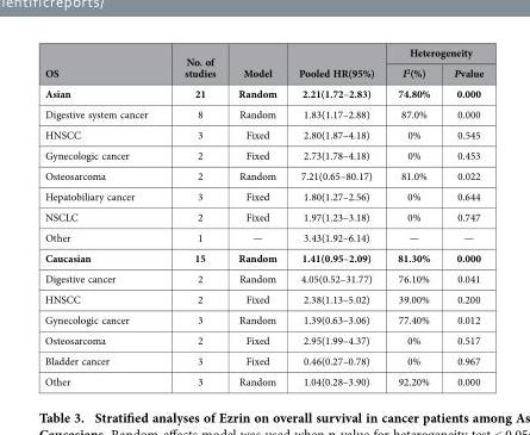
<table><thead><tr><td rowspan="2">OS</td><td rowspan="2">No. of studies</td><td rowspan="2">Model</td><td rowspan="2">Pooled HR(95%)</td><td colspan="2">Heterogeneity</td></tr><tr><td>I<sup>2</sup>(%)</td><td>Pvalue</td></tr></thead><tbody><tr><td>Asian</td><td>21</td><td>Random</td><td>2.21(1.72–2.83)</td><td>74.80%</td><td>0.000</td></tr><tr><td>Digestive system cancer</td><td>8</td><td>Random</td><td>1.83(1.17–2.88)</td><td>87.0%</td><td>0.000</td></tr><tr><td>HNSCC</td><td>3</td><td>Fixed</td><td>2.80(1.87–4.18)</td><td>0%</td><td>0.545</td></tr><tr><td>Gynecologic cancer</td><td>2</td><td>Fixed</td><td>2.73(1.78–4.18)</td><td>0%</td><td>0.453</td></tr><tr><td>Osteosarcoma</td><td>2</td><td>Random</td><td>7.21(0.65–80.17)</td><td>81.0%</td><td>0.022</td></tr><tr><td>Hepatobiliary cancer</td><td>3</td><td>Fixed</td><td>1.80(1.27–2.56)</td><td>0%</td><td>0.644</td></tr><tr><td>NSCLC</td><td>2</td><td>Fixed</td><td>1.97(1.23–3.18)</td><td>0%</td><td>0.747</td></tr><tr><td>Other</td><td>1</td><td>—</td><td>3.43(1.92–6.14)</td><td>—</td><td>—</td></tr><tr><td>Caucasian</td><td>15</td><td>Random</td><td>1.41(0.95–2.09)</td><td>81.30%</td><td>0.000</td></tr><tr><td>Digestive cancer</td><td>2</td><td>Random</td><td>4.05(0.52–31.77)</td><td>76.10%</td><td>0.041</td></tr><tr><td>HNSCC</td><td>2</td><td>Fixed</td><td>2.38(1.13–5.02)</td><td>39.00%</td><td>0.200</td></tr><tr><td>Gynecologic cancer</td><td>3</td><td>Random</td><td>1.39(0.63–3.06)</td><td>77.40%</td><td>0.012</td></tr><tr><td>Osteosarcoma</td><td>2</td><td>Fixed</td><td>2.95(1.99–4.37)</td><td>0%</td><td>0.517</td></tr><tr><td>Bladder cancer</td><td>3</td><td>Fixed</td><td>0.46(0.27–0.78)</td><td>0%</td><td>0.967</td></tr><tr><td>Other</td><td>3</td><td>Random</td><td>1.04(0.28–3.90)</td><td>92.20%</td><td>0.000</td></tr></tbody></table>